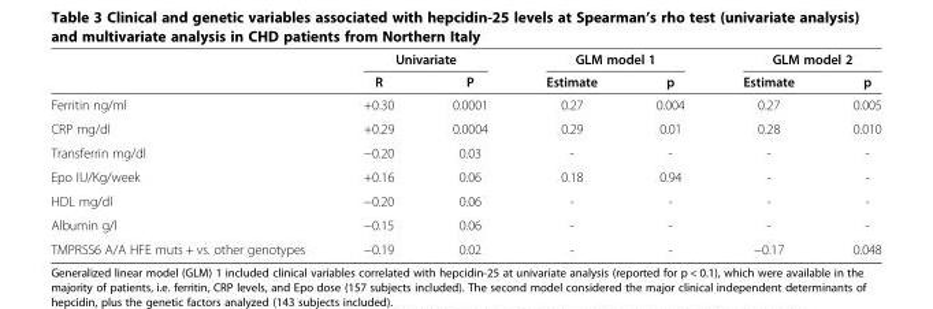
<table><thead><tr><td rowspan="2"></td><td colspan="2">Univariate</td><td colspan="2">GLM model 1</td><td colspan="2">GLM model 2</td></tr><tr><td>R</td><td>P</td><td>Estimate</td><td>p</td><td>Estimate</td><td>p</td></tr></thead><tbody><tr><td>Ferritin ng/ml</td><td>+0.30</td><td>0.0001</td><td>0.27</td><td>0.004</td><td>0.27</td><td>0.005</td></tr><tr><td>CRP mg/dl</td><td>+0.29</td><td>0.0004</td><td>0.29</td><td>0.01</td><td>0.28</td><td>0.010</td></tr><tr><td>Transferrin mg/dl</td><td>−0.20</td><td>0.03</td><td>-</td><td>-</td><td>-</td><td>-</td></tr><tr><td>Epo IU/Kg/week</td><td>+0.16</td><td>0.06</td><td>0.18</td><td>0.94</td><td>-</td><td>-</td></tr><tr><td>HDL mg/dl</td><td>−0.20</td><td>0.06</td><td>-</td><td>-</td><td>-</td><td>-</td></tr><tr><td>Albumin g/l</td><td>−0.15</td><td>0.06</td><td>-</td><td>-</td><td>-</td><td>-</td></tr><tr><td>TMPRSS6 A/A HFE muts + vs. other genotypes</td><td>−0.19</td><td>0.02</td><td>-</td><td>-</td><td>−0.17</td><td>0.048</td></tr></tbody></table>